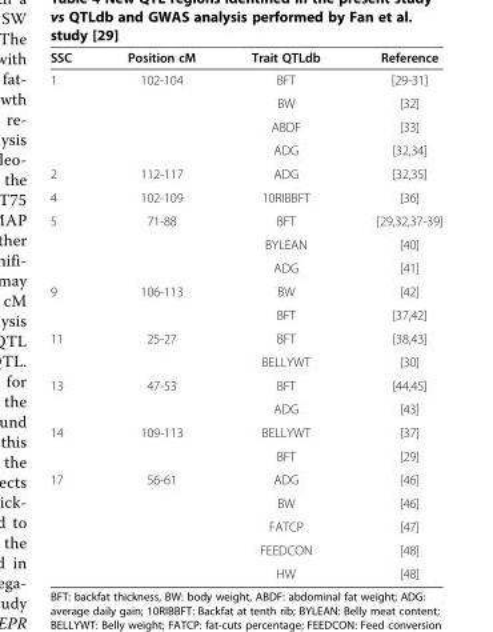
<table><thead><tr><td>SSC</td><td>Position cM</td><td>Trait QTLdb</td><td>Reference</td></tr></thead><tbody><tr><td rowspan="4">1</td><td>102-104</td><td>BFT</td><td>[29-31]</td></tr><tr><td></td><td>BW</td><td>[32]</td></tr><tr><td></td><td>ABDF</td><td>[33]</td></tr><tr><td></td><td>ADG</td><td>[32,34]</td></tr><tr><td>2</td><td>112-117</td><td>ADG</td><td>[32,35]</td></tr><tr><td>4</td><td>102-109</td><td>10RIBBFT</td><td>[36]</td></tr><tr><td rowspan="3">5</td><td>71-88</td><td>BFT</td><td>[29,32,37-39]</td></tr><tr><td></td><td>BYLEAN</td><td>[40]</td></tr><tr><td></td><td>ADG</td><td>[41]</td></tr><tr><td rowspan="2">9</td><td>106-113</td><td>BW</td><td>[42]</td></tr><tr><td></td><td>BFT</td><td>[37,42]</td></tr><tr><td rowspan="2">11</td><td>25-27</td><td>BFT</td><td>[38,43]</td></tr><tr><td></td><td>BELLYWT</td><td>[30]</td></tr><tr><td rowspan="2">13</td><td>47-53</td><td>BFT</td><td>[44,45]</td></tr><tr><td></td><td>ADG</td><td>[43]</td></tr><tr><td rowspan="2">14</td><td>109-113</td><td>BELLYWT</td><td>[37]</td></tr><tr><td></td><td>BFT</td><td>[29]</td></tr><tr><td rowspan="5">17</td><td>56-61</td><td>ADG</td><td>[46]</td></tr><tr><td></td><td>BW</td><td>[46]</td></tr><tr><td></td><td>FATCP</td><td>[47]</td></tr><tr><td></td><td>FEEDCON</td><td>[48]</td></tr><tr><td></td><td>HW</td><td>[48]</td></tr></tbody></table>